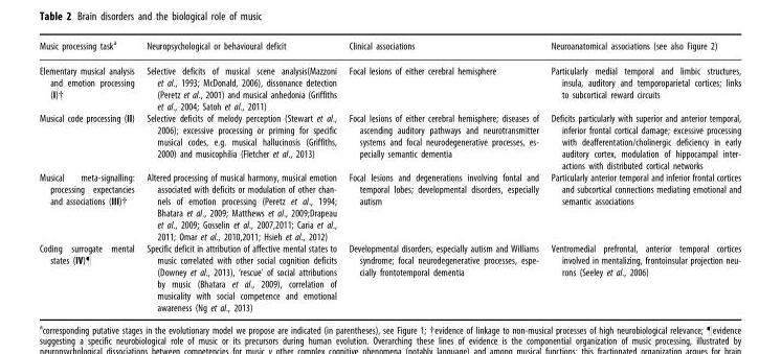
<table><thead><tr><td>Music processing task<sup>a</sup></td><td>Neuropsychological or behavioural deficit</td><td>Clinical associations</td><td>Neuroanatomical associations (see also Figure 2)</td></tr></thead><tbody><tr><td>Elementary musical analysis and emotion processing (I)†</td><td>Selective deficits of musical scene analysis(Mazzoni et al., 1993; McDonald, 2006), dissonance detection (Peretz et al., 2001) and musical anhedonia (Griffiths et al., 2004; Satoh et al., 2011)</td><td>Focal lesions of either cerebral hemisphere</td><td>Particularly medial temporal and limbic structures, insula, auditory and temporoparietal cortices; links to subcortical reward circuits</td></tr><tr><td>Musical code processing (II)</td><td>Selective deficits of melody perception (Stewart et al., 2006); excessive processing or priming for specific musical codes, e.g. musical hallucinosis (Griffiths, 2000) and musicophilia (Fletcher et al., 2013)</td><td>Focal lesions of either cerebral hemisphere; diseases of ascending auditory pathways and neurotransmitter systems and focal neurodegenerative processes, es- pecially semantic dementia</td><td>Deficits particularly with superior and anterior temporal, inferior frontal cortical damage; excessive processing with deafferentation/cholinergic deficiency in early auditory cortex, modulation of hippocampal inter- actions with distributed cortical networks</td></tr><tr><td>Musical meta-signalling: processing expectancies and associations (III)†</td><td>Altered processing of musical harmony, musical emotion associated with deficits or modulation of other chan- nels of emotion processing (Peretz et al., 1994; Bhatara et al., 2009; Matthews et al., 2009;Drapeau et al., 2009; Gosselin et al., 2007,2011; Caria et al., 2011; Omar et al., 2010,2011; Hsieh et al., 2012)</td><td>Focal lesions and degenerations involving fontal and temporal lobes; developmental disorders, especially autism</td><td>Particularly anterior temporal and inferior frontal cortices and subcortical connections mediating emotional and semantic associations</td></tr><tr><td>Coding surrogate mental states (IV)¶</td><td>Specific deficit in attribution of affective mental states to music correlated with other social cognition deficits (Downey et al., 2013), ‘rescue’ of social attributions by music (Bhatara et al., 2009), correlation of musicality with social competence and emotional awareness (Ng et al., 2013)</td><td>Developmental disorders, especially autism and Williams syndrome; focal neurodegenerative processes, espe- cially frontotemporal dementia</td><td>Ventromedial prefrontal, anterior temporal cortices involved in mentalizing, frontoinsular projection neu- rons (Seeley et al., 2006)</td></tr></tbody></table>